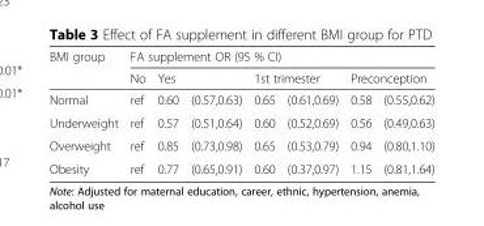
<table><thead><tr><td rowspan="3">BMI group Normal</td><td colspan="7">FA supplement OR (95 % CI)</td></tr><tr><td rowspan="2">No ref</td><td colspan="2">Yes</td><td colspan="2">1st trimester</td><td colspan="2">Preconception</td></tr><tr><td>0.60</td><td>(0.57,0.63)</td><td>0.65</td><td>(0.61,0.69)</td><td>0.58</td><td>(0.55,0.62)</td></tr></thead><tbody><tr><td>Underweight</td><td>ref</td><td>0.57</td><td>(0.51,0.64)</td><td>0.60</td><td>(0.52,0.69)</td><td>0.56</td><td>(0.49,0.63)</td></tr><tr><td>Overweight</td><td>ref</td><td>0.85</td><td>(0.73,0.98)</td><td>0.65</td><td>(0.53,0.79)</td><td>0.94</td><td>(0.80,1.10)</td></tr><tr><td>Obesity</td><td>ref</td><td>0.77</td><td>(0.65,0.91)</td><td>0.60</td><td>(0.37,0.97)</td><td>1.15</td><td>(0.81,1.64)</td></tr></tbody></table>